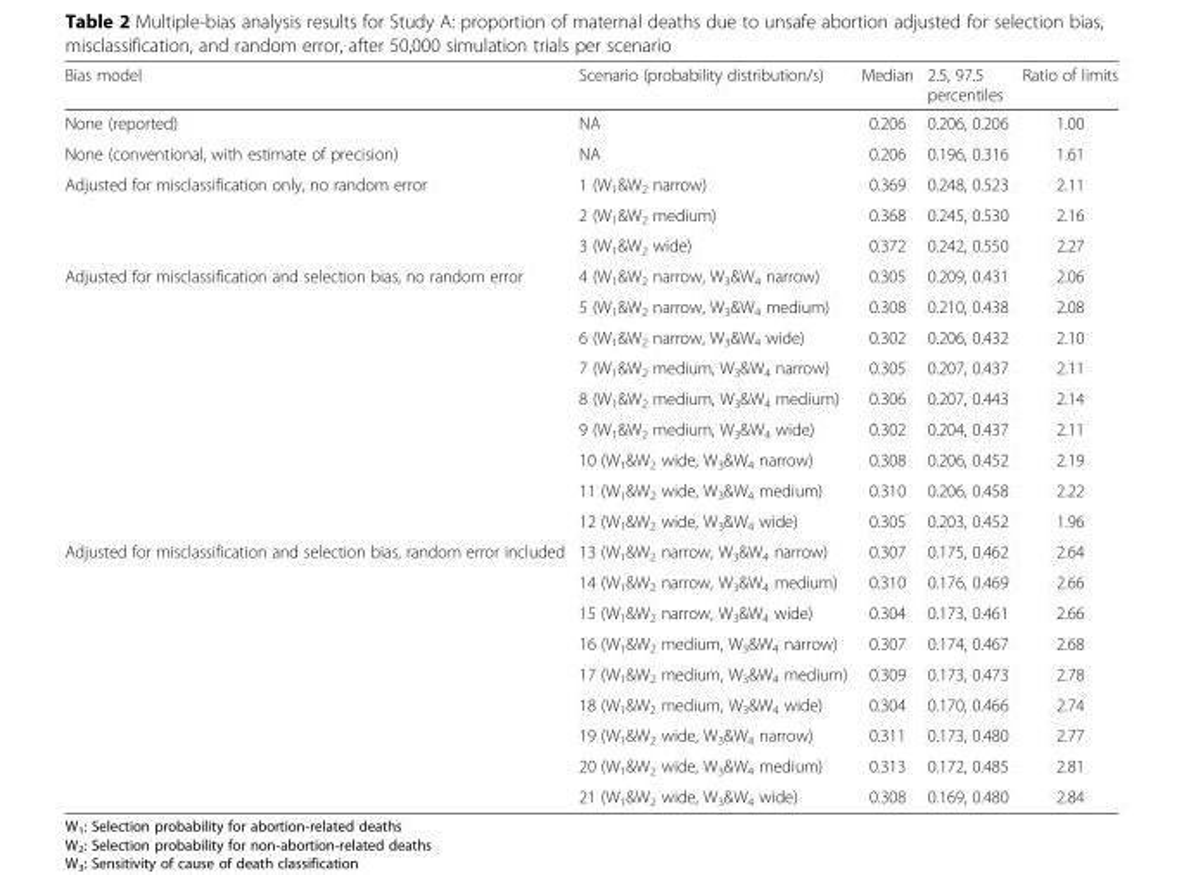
<table><thead><tr><td>Bias model</td><td>Scenario (probability distribution/s)</td><td>Median</td><td>2.5, 97.5 percentiles</td><td>Ratio of limits</td></tr></thead><tbody><tr><td>None (reported)</td><td>NA</td><td>0.206</td><td>0.206, 0.206</td><td>1.00</td></tr><tr><td>None (conventional, with estimate of precision)</td><td>NA</td><td>0.206</td><td>0.196, 0.316</td><td>1.61</td></tr><tr><td rowspan="3">Adjusted for misclassification only, no random error</td><td>1 (W<sub>1</sub>&amp;W<sub>2</sub> narrow)</td><td>0.369</td><td>0.248, 0.523</td><td>2.11</td></tr><tr><td>2 (W<sub>1</sub>&amp;W<sub>2</sub> medium)</td><td>0.368</td><td>0.245, 0.530</td><td>2.16</td></tr><tr><td>3 (W<sub>1</sub>&amp;W<sub>2</sub> wide)</td><td>0.372</td><td>0.242, 0.550</td><td>2.27</td></tr><tr><td rowspan="9">Adjusted for misclassification and selection bias, no random error</td><td>4 (W<sub>1</sub>&amp;W<sub>2</sub> narrow, W<sub>3</sub>&amp;W<sub>4</sub> narrow)</td><td>0.305</td><td>0.209, 0.431</td><td>2.06</td></tr><tr><td>5 (W<sub>1</sub>&amp;W<sub>2</sub> narrow, W<sub>3</sub>&amp;W<sub>4</sub> medium)</td><td>0.308</td><td>0.210, 0.438</td><td>2.08</td></tr><tr><td>6 (W<sub>1</sub>&amp;W<sub>2</sub> narrow, W<sub>3</sub>&amp;W<sub>4</sub> wide)</td><td>0.302</td><td>0.206, 0.432</td><td>2.10</td></tr><tr><td>7 (W<sub>1</sub>&amp;W<sub>2</sub> medium, W<sub>3</sub>&amp;W<sub>4</sub> narrow)</td><td>0.305</td><td>0.207, 0.437</td><td>2.11</td></tr><tr><td>8 (W<sub>1</sub>&amp;W<sub>2</sub> medium, W<sub>3</sub>&amp;W<sub>4</sub> medium)</td><td>0.306</td><td>0.207, 0.443</td><td>2.14</td></tr><tr><td>9 (W<sub>1</sub>&amp;W<sub>2</sub> medium, W<sub>3</sub>&amp;W<sub>4</sub> wide)</td><td>0.302</td><td>0.204, 0.437</td><td>2.11</td></tr><tr><td>10 (W<sub>1</sub>&amp;W<sub>2</sub> wide, W<sub>3</sub>&amp;W<sub>4</sub> narrow)</td><td>0.308</td><td>0.206, 0.452</td><td>2.19</td></tr><tr><td>11 (W<sub>1</sub>&amp;W<sub>2</sub> wide, W<sub>3</sub>&amp;W<sub>4</sub> medium)</td><td>0.310</td><td>0.206, 0.458</td><td>2.22</td></tr><tr><td>12 (W<sub>1</sub>&amp;W<sub>2</sub> wide, W<sub>3</sub>&amp;W<sub>4</sub> wide)</td><td>0.305</td><td>0.203, 0.452</td><td>1.96</td></tr><tr><td rowspan="9">Adjusted for misclassification and selection bias, random error included</td><td>13 (W<sub>1</sub>&amp;W<sub>2</sub> narrow, W<sub>3</sub>&amp;W<sub>4</sub> narrow)</td><td>0.307</td><td>0.175, 0.462</td><td>2.64</td></tr><tr><td>14 (W<sub>1</sub>&amp;W<sub>2</sub> narrow, W<sub>3</sub>&amp;W<sub>4</sub> medium)</td><td>0.310</td><td>0.176, 0.469</td><td>2.66</td></tr><tr><td>15 (W<sub>1</sub>&amp;W<sub>2</sub> narrow, W<sub>3</sub>&amp;W<sub>4</sub> wide)</td><td>0.304</td><td>0.173, 0.461</td><td>2.66</td></tr><tr><td>16 (W<sub>1</sub>&amp;W<sub>2</sub> medium, W<sub>3</sub>&amp;W<sub>4</sub> narrow)</td><td>0.307</td><td>0.174, 0.467</td><td>2.68</td></tr><tr><td>17 (W<sub>1</sub>&amp;W<sub>2</sub> medium, W<sub>3</sub>&amp;W<sub>4</sub> medium)</td><td>0.309</td><td>0.173, 0.473</td><td>2.78</td></tr><tr><td>18 (W<sub>1</sub>&amp;W<sub>2</sub> medium, W<sub>3</sub>&amp;W<sub>4</sub> wide)</td><td>0.304</td><td>0.170, 0.466</td><td>2.74</td></tr><tr><td>19 (W<sub>1</sub>&amp;W<sub>2</sub> wide, W<sub>3</sub>&amp;W<sub>4</sub> narrow)</td><td>0.311</td><td>0.173, 0.480</td><td>2.77</td></tr><tr><td>20 (W<sub>1</sub>&amp;W<sub>2</sub> wide, W<sub>3</sub>&amp;W<sub>4</sub> medium)</td><td>0.313</td><td>0.172, 0.485</td><td>2.81</td></tr><tr><td>21 (W<sub>1</sub>&amp;W<sub>2</sub> wide, W<sub>3</sub>&amp;W<sub>4</sub> wide)</td><td>0.308</td><td>0.169, 0.480</td><td>2.84</td></tr></tbody></table>